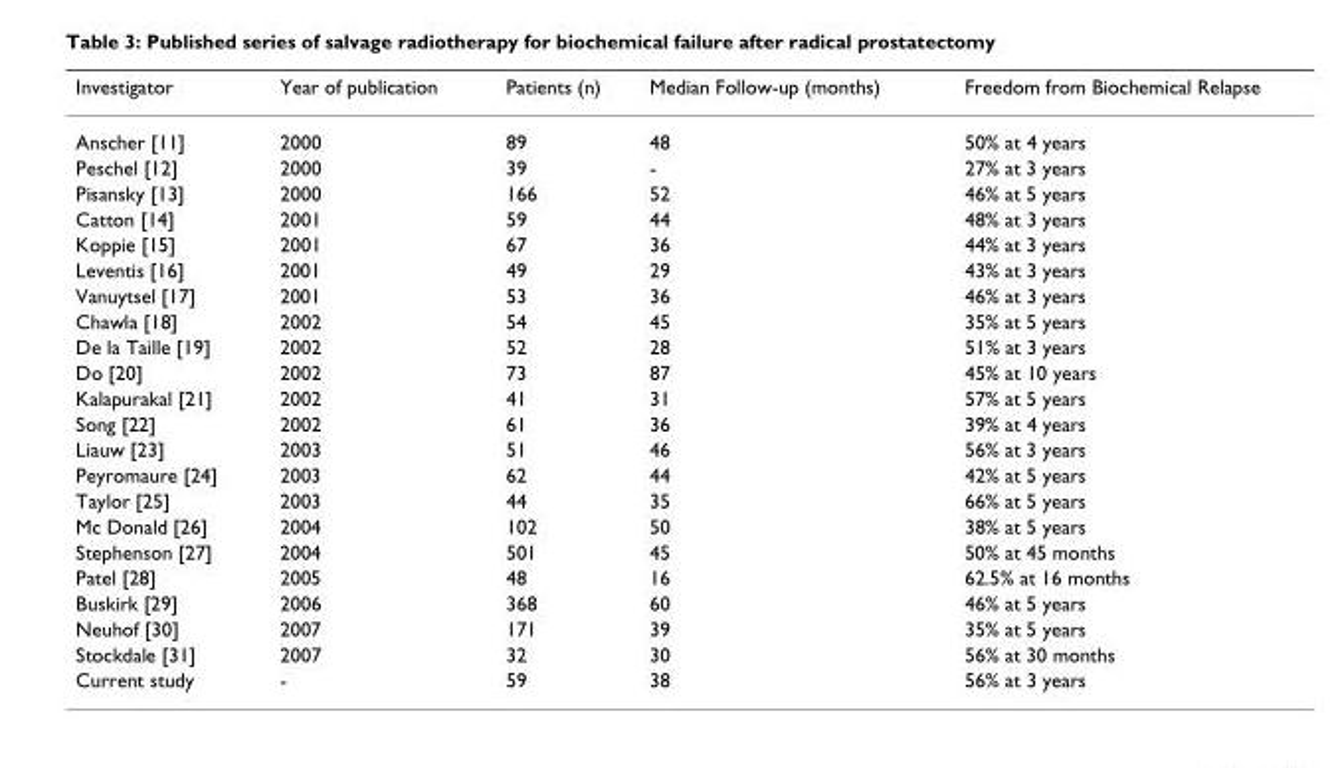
<table><thead><tr><td>Investigator</td><td>Year of publication</td><td>Patients (n)</td><td>Median Follow-up (months)</td><td>Freedom from Biochemical Relapse</td></tr></thead><tbody><tr><td>Anscher [11]</td><td>2000</td><td>89</td><td>48</td><td>50% at 4 years</td></tr><tr><td>Peschel [12]</td><td>2000</td><td>39</td><td>-</td><td>27% at 3 years</td></tr><tr><td>Pisansky [13]</td><td>2000</td><td>166</td><td>52</td><td>46% at 5 years</td></tr><tr><td>Catton [14]</td><td>2001</td><td>59</td><td>44</td><td>48% at 3 years</td></tr><tr><td>Koppie [15]</td><td>2001</td><td>67</td><td>36</td><td>44% at 3 years</td></tr><tr><td>Leventis [16]</td><td>2001</td><td>49</td><td>29</td><td>43% at 3 years</td></tr><tr><td>Vanuytsel [17]</td><td>2001</td><td>53</td><td>36</td><td>46% at 3 years</td></tr><tr><td>Chawla [18]</td><td>2002</td><td>54</td><td>45</td><td>35% at 5 years</td></tr><tr><td>De la Taille [19]</td><td>2002</td><td>52</td><td>28</td><td>51% at 3 years</td></tr><tr><td>Do [20]</td><td>2002</td><td>73</td><td>87</td><td>45% at 10 years</td></tr><tr><td>Kalapurakal [21]</td><td>2002</td><td>41</td><td>31</td><td>57% at 5 years</td></tr><tr><td>Song [22]</td><td>2002</td><td>61</td><td>36</td><td>39% at 4 years</td></tr><tr><td>Liauw [23]</td><td>2003</td><td>51</td><td>46</td><td>56% at 3 years</td></tr><tr><td>Peyromaure [24]</td><td>2003</td><td>62</td><td>44</td><td>42% at 5 years</td></tr><tr><td>Taylor [25]</td><td>2003</td><td>44</td><td>35</td><td>66% at 5 years</td></tr><tr><td>Mc Donald [26]</td><td>2004</td><td>102</td><td>50</td><td>38% at 5 years</td></tr><tr><td>Stephenson [27]</td><td>2004</td><td>501</td><td>45</td><td>50% at 45 months</td></tr><tr><td>Patel [28]</td><td>2005</td><td>48</td><td>16</td><td>62.5% at 16 months</td></tr><tr><td>Buskirk [29]</td><td>2006</td><td>368</td><td>60</td><td>46% at 5 years</td></tr><tr><td>Neuhof [30]</td><td>2007</td><td>171</td><td>39</td><td>35% at 5 years</td></tr><tr><td>Stockdale [31]</td><td>2007</td><td>32</td><td>30</td><td>56% at 30 months</td></tr><tr><td>Current study</td><td>-</td><td>59</td><td>38</td><td>56% at 3 years</td></tr></tbody></table>